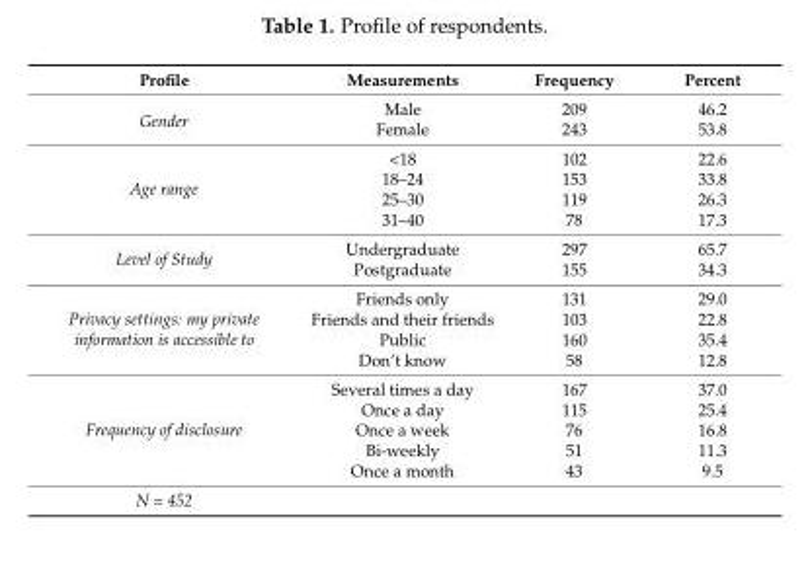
<table><thead><tr><td>Profile</td><td>Measurements</td><td>Frequency</td><td>Percent</td></tr></thead><tbody><tr><td rowspan="2">Gender</td><td>Male</td><td>209</td><td>46.2</td></tr><tr><td>Female</td><td>243</td><td>53.8</td></tr><tr><td rowspan="4">Age range</td><td>&lt;18</td><td>102</td><td>22.6</td></tr><tr><td>18–24</td><td>153</td><td>33.8</td></tr><tr><td>25–30</td><td>119</td><td>26.3</td></tr><tr><td>31–40</td><td>78</td><td>17.3</td></tr><tr><td rowspan="2">Level of Study</td><td>Undergraduate</td><td>297</td><td>65.7</td></tr><tr><td>Postgraduate</td><td>155</td><td>34.3</td></tr><tr><td rowspan="4">Privacy settings: my private information is accessible to</td><td>Friends only</td><td>131</td><td>29.0</td></tr><tr><td>Friends and their friends</td><td>103</td><td>22.8</td></tr><tr><td>Public</td><td>160</td><td>35.4</td></tr><tr><td>Don’t know</td><td>58</td><td>12.8</td></tr><tr><td rowspan="5">Frequency of disclosure</td><td>Several times a day</td><td>167</td><td>37.0</td></tr><tr><td>Once a day</td><td>115</td><td>25.4</td></tr><tr><td>Once a week</td><td>76</td><td>16.8</td></tr><tr><td>Bi-weekly</td><td>51</td><td>11.3</td></tr><tr><td>Once a month</td><td>43</td><td>9.5</td></tr><tr><td>N = 452</td><td></td><td></td><td></td></tr></tbody></table>